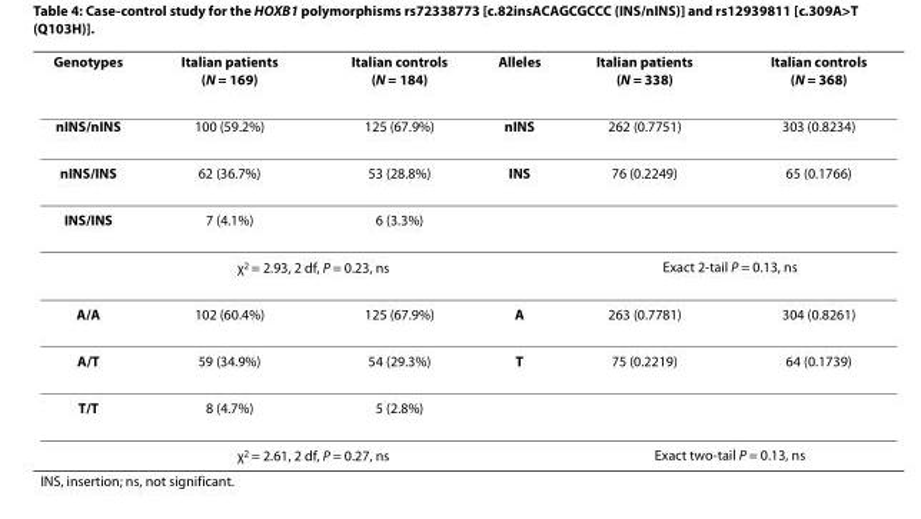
<table><thead><tr><td>Genotypes</td><td>Italian patients (N = 169)</td><td>Italian controls (N = 184)</td><td>Alleles</td><td>Italian patients (N = 338)</td><td>Italian controls (N = 368)</td></tr></thead><tbody><tr><td>nINS/nINS</td><td>100 (59.2%)</td><td>125 (67.9%)</td><td>nINS</td><td>262 (0.7751)</td><td>303 (0.8234)</td></tr><tr><td>nINS/INS</td><td>62 (36.7%)</td><td>53 (28.8%)</td><td>INS</td><td>76 (0.2249)</td><td>65 (0.1766)</td></tr><tr><td rowspan="2">INS/INS</td><td>7 (4.1%)</td><td>6 (3.3%)</td><td></td><td></td><td></td></tr><tr><td colspan="2">χ<sup>2</sup> = 2.93, 2 df, P = 0.23, ns</td><td></td><td colspan="2">Exact 2-tail P = 0.13, ns</td></tr><tr><td>A/A</td><td>102 (60.4%)</td><td>125 (67.9%)</td><td>A</td><td>263 (0.7781)</td><td>304 (0.8261)</td></tr><tr><td>A/T</td><td>59 (34.9%)</td><td>54 (29.3%)</td><td>T</td><td>75 (0.2219)</td><td>64 (0.1739)</td></tr><tr><td rowspan="2">T/T</td><td>8 (4.7%)</td><td>5 (2.8%)</td><td></td><td></td><td></td></tr><tr><td colspan="2">χ<sup>2</sup> = 2.61, 2 df, P = 0.27, ns</td><td></td><td colspan="2">Exact two-tail P = 0.13, ns</td></tr></tbody></table>